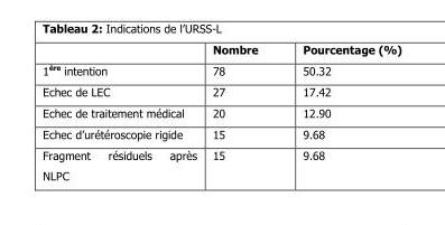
<table><thead><tr><td></td><td>Nombre</td><td>Pourcentage (%)</td></tr></thead><tbody><tr><td>1<sup>ère</sup> intention</td><td>78</td><td>50.32</td></tr><tr><td>Echec de LEC</td><td>27</td><td>17.42</td></tr><tr><td>Echec de traitement médical</td><td>20</td><td>12.90</td></tr><tr><td>Echec d’urétéroscopie rigide</td><td>15</td><td>9.68</td></tr><tr><td>Fragment résiduels après NLPC</td><td>15</td><td>9.68</td></tr></tbody></table>